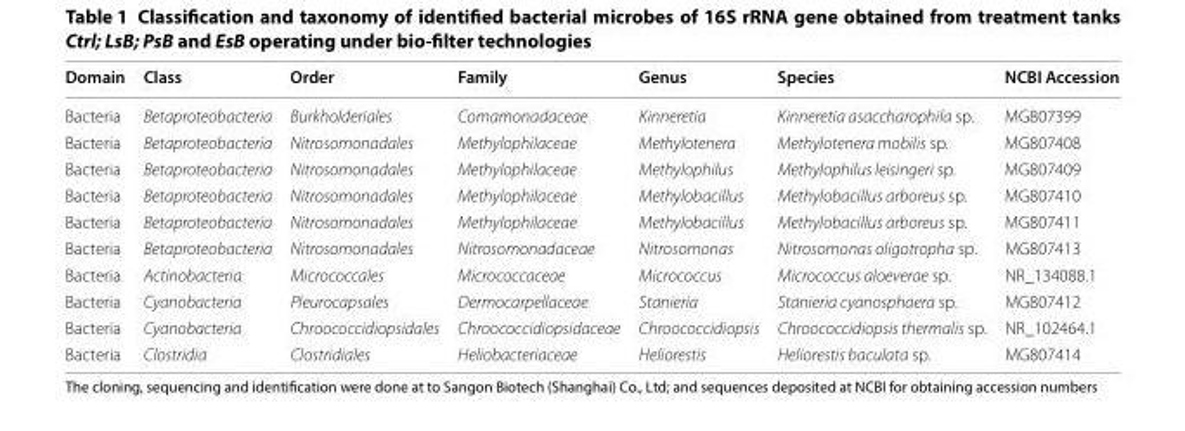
<table><thead><tr><td>Domain</td><td>Class</td><td>Order</td><td>Family</td><td>Genus</td><td>Species</td><td>NCBI Accession</td></tr></thead><tbody><tr><td>Bacteria</td><td>Betaproteobacteria</td><td>Burkholderiales</td><td>Comamonadaceae</td><td>Kinneretia</td><td>Kinneretia asaccharophila sp.</td><td>MG807399</td></tr><tr><td>Bacteria</td><td>Betaproteobacteria</td><td>Nitrosomonadales</td><td>Methylophilaceae</td><td>Methylotenera</td><td>Methylotenera mobilis sp.</td><td>MG807408</td></tr><tr><td>Bacteria</td><td>Betaproteobacteria</td><td>Nitrosomonadales</td><td>Methylophilaceae</td><td>Methylophilus</td><td>Methylophilus leisingeri sp.</td><td>MG807409</td></tr><tr><td>Bacteria</td><td>Betaproteobacteria</td><td>Nitrosomonadales</td><td>Methylophilaceae</td><td>Methylobacillus</td><td>Methylobacillus arboreus sp.</td><td>MG807410</td></tr><tr><td>Bacteria</td><td>Betaproteobacteria</td><td>Nitrosomonadales</td><td>Methylophilaceae</td><td>Methylobacillus</td><td>Methylobacillus arboreus sp.</td><td>MG807411</td></tr><tr><td>Bacteria</td><td>Betaproteobacteria</td><td>Nitrosomonadales</td><td>Nitrosomonadaceae</td><td>Nitrosomonas</td><td>Nitrosomonas oligotropha sp.</td><td>MG807413</td></tr><tr><td>Bacteria</td><td>Actinobacteria</td><td>Micrococcales</td><td>Micrococcaceae</td><td>Micrococcus</td><td>Micrococcus aloeverae sp.</td><td>NR_134088.1</td></tr><tr><td>Bacteria</td><td>Cyanobacteria</td><td>Pleurocapsales</td><td>Dermocarpellaceae</td><td>Stanieria</td><td>Stanieria cyanosphaera sp.</td><td>MG807412</td></tr><tr><td>Bacteria</td><td>Cyanobacteria</td><td>Chroococcidiopsidales</td><td>Chroococcidiopsidaceae</td><td>Chroococcidiopsis</td><td>Chroococcidiopsis thermalis sp.</td><td>NR_102464.1</td></tr><tr><td>Bacteria</td><td>Clostridia</td><td>Clostridiales</td><td>Heliobacteriaceae</td><td>Heliorestis</td><td>Heliorestis baculata sp.</td><td>MG807414</td></tr></tbody></table>